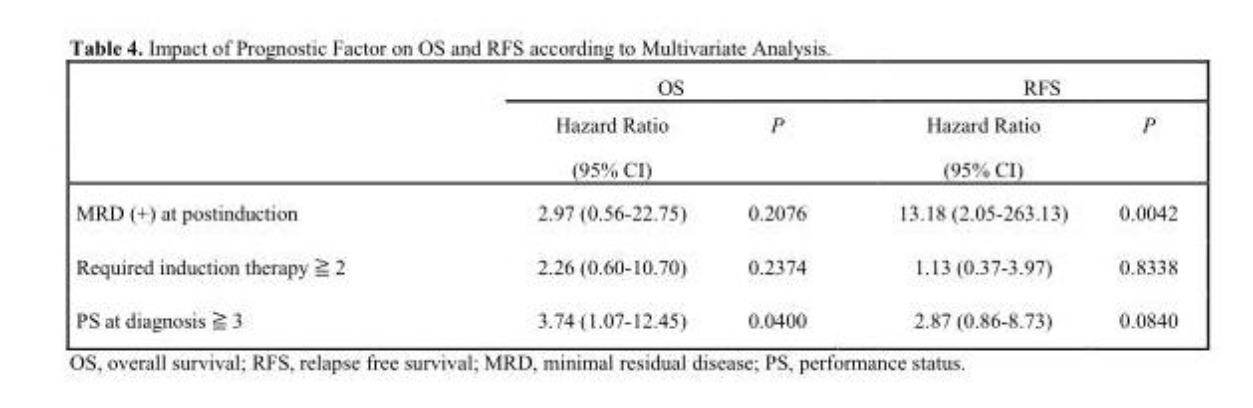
<table><thead><tr><td rowspan="2"></td><td colspan="2">OS</td><td colspan="2">RFS</td></tr><tr><td>Hazard Ratio (95% CI)</td><td>P</td><td>Hazard Ratio (95% CI)</td><td>P</td></tr></thead><tbody><tr><td>MRD (+) at postinduction</td><td>2.97 (0.56-22.75)</td><td>0.2076</td><td>13.18 (2.05-263.13)</td><td>0.0042</td></tr><tr><td>Required induction therapy ≧ 2</td><td>2.26 (0.60-10.70)</td><td>0.2374</td><td>1.13 (0.37-3.97)</td><td>0.8338</td></tr><tr><td>PS at diagnosis ≧ 3</td><td>3.74 (1.07-12.45)</td><td>0.0400</td><td>2.87 (0.86-8.73)</td><td>0.0840</td></tr></tbody></table>